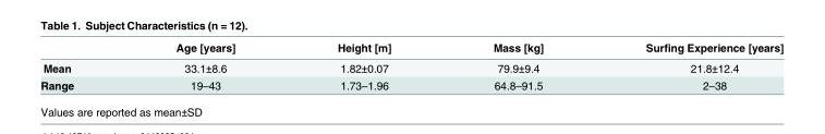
<table><thead><tr><td></td><td>Age [years]</td><td>Height [m]</td><td>Mass [kg]</td><td>Surfing Experience [years]</td></tr></thead><tbody><tr><td>Mean</td><td>33.1±8.6</td><td>1.82±0.07</td><td>79.9±9.4</td><td>21.8±12.4</td></tr><tr><td>Range</td><td>19–43</td><td>1.73–1.96</td><td>64.8–91.5</td><td>2–38</td></tr></tbody></table>